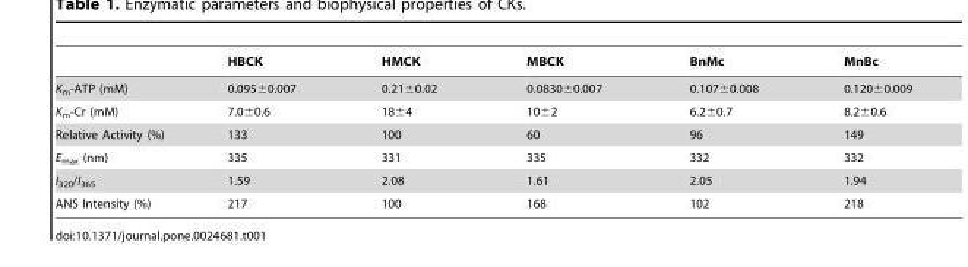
<table><thead><tr><td></td><td>HBCK</td><td>HMCK</td><td>MBCK</td><td>BnMc</td><td>MnBc</td></tr></thead><tbody><tr><td>K<sub>m</sub>-ATP (mM)</td><td>0.095±0.007</td><td>0.21±0.02</td><td>0.0830±0.007</td><td>0.107±0.008</td><td>0.120±0.009</td></tr><tr><td>K<sub>m</sub>-Cr (mM)</td><td>7.0±0.6</td><td>18±4</td><td>10±2</td><td>6.2±0.7</td><td>8.2±0.6</td></tr><tr><td>Relative Activity (%)</td><td>133</td><td>100</td><td>60</td><td>96</td><td>149</td></tr><tr><td>E<sub>max</sub> (nm)</td><td>335</td><td>331</td><td>335</td><td>332</td><td>332</td></tr><tr><td>I<sub>320</sub>/I<sub>365</sub></td><td>1.59</td><td>2.08</td><td>1.61</td><td>2.05</td><td>1.94</td></tr><tr><td>ANS Intensity (%)</td><td>217</td><td>100</td><td>168</td><td>102</td><td>218</td></tr></tbody></table>